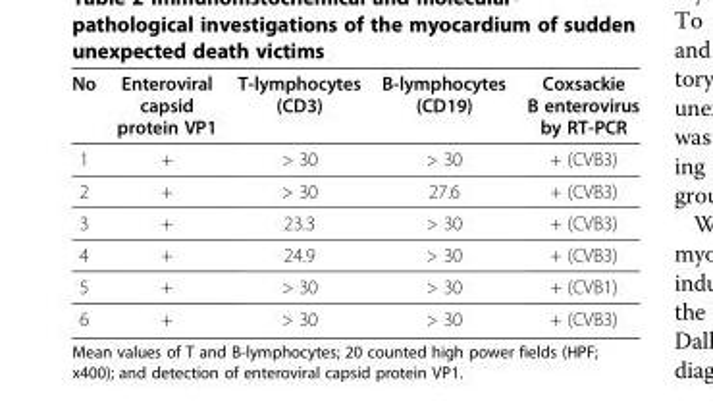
<table><thead><tr><td>No</td><td>Enteroviral capsid protein VP1</td><td>T-lymphocytes (CD3)</td><td>B-lymphocytes (CD19)</td><td>Coxsackie B enterovirus by RT-PCR</td></tr></thead><tbody><tr><td>1</td><td>+</td><td>&gt; 30</td><td>&gt; 30</td><td>+ (CVB3)</td></tr><tr><td>2</td><td>+</td><td>&gt; 30</td><td>27.6</td><td>+ (CVB3)</td></tr><tr><td>3</td><td>+</td><td>23.3</td><td>&gt; 30</td><td>+ (CVB3)</td></tr><tr><td>4</td><td>+</td><td>24.9</td><td>&gt; 30</td><td>+ (CVB3)</td></tr><tr><td>5</td><td>+</td><td>&gt; 30</td><td>&gt; 30</td><td>+ (CVB1)</td></tr><tr><td>6</td><td>+</td><td>&gt; 30</td><td>&gt; 30</td><td>+ (CVB3)</td></tr></tbody></table>